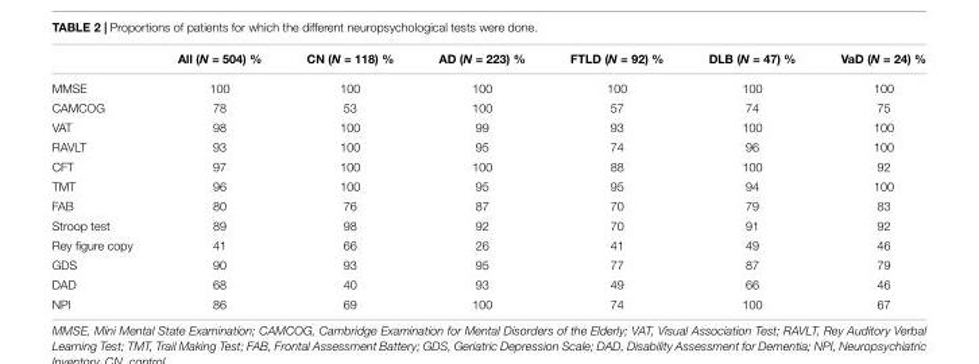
<table><thead><tr><td></td><td>All (N = 504) %</td><td>CN (N = 118) %</td><td>AD (N = 223) %</td><td>FTLD (N = 92) %</td><td>DLB (N = 47) %</td><td>VaD (N = 24) %</td></tr></thead><tbody><tr><td>MMSE</td><td>100</td><td>100</td><td>100</td><td>100</td><td>100</td><td>100</td></tr><tr><td>CAMCOG</td><td>78</td><td>53</td><td>100</td><td>57</td><td>74</td><td>75</td></tr><tr><td>VAT</td><td>98</td><td>100</td><td>99</td><td>93</td><td>100</td><td>100</td></tr><tr><td>RAVLT</td><td>93</td><td>100</td><td>95</td><td>74</td><td>96</td><td>100</td></tr><tr><td>CFT</td><td>97</td><td>100</td><td>100</td><td>88</td><td>100</td><td>92</td></tr><tr><td>TMT</td><td>96</td><td>100</td><td>95</td><td>95</td><td>94</td><td>100</td></tr><tr><td>FAB</td><td>80</td><td>76</td><td>87</td><td>70</td><td>79</td><td>83</td></tr><tr><td>Stroop test</td><td>89</td><td>98</td><td>92</td><td>70</td><td>91</td><td>92</td></tr><tr><td>Rey figure copy</td><td>41</td><td>66</td><td>26</td><td>41</td><td>49</td><td>46</td></tr><tr><td>GDS</td><td>90</td><td>93</td><td>95</td><td>77</td><td>87</td><td>79</td></tr><tr><td>DAD</td><td>68</td><td>40</td><td>93</td><td>49</td><td>66</td><td>46</td></tr><tr><td>NPI</td><td>86</td><td>69</td><td>100</td><td>74</td><td>100</td><td>67</td></tr></tbody></table>